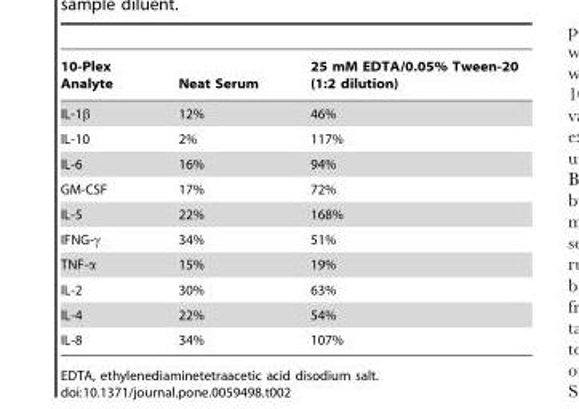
<table><thead><tr><td>10-Plex Analyte</td><td>Neat Serum</td><td>25 mM EDTA/0.05% Tween-20 (1:2 dilution)</td></tr></thead><tbody><tr><td>IL-1β</td><td>12%</td><td>46%</td></tr><tr><td>IL-10</td><td>2%</td><td>117%</td></tr><tr><td>IL-6</td><td>16%</td><td>94%</td></tr><tr><td>GM-CSF</td><td>17%</td><td>72%</td></tr><tr><td>IL-5</td><td>22%</td><td>168%</td></tr><tr><td>IFNG-γ</td><td>34%</td><td>51%</td></tr><tr><td>TNF-α</td><td>15%</td><td>19%</td></tr><tr><td>IL-2</td><td>30%</td><td>63%</td></tr><tr><td>IL-4</td><td>22%</td><td>54%</td></tr><tr><td>IL-8</td><td>34%</td><td>107%</td></tr></tbody></table>